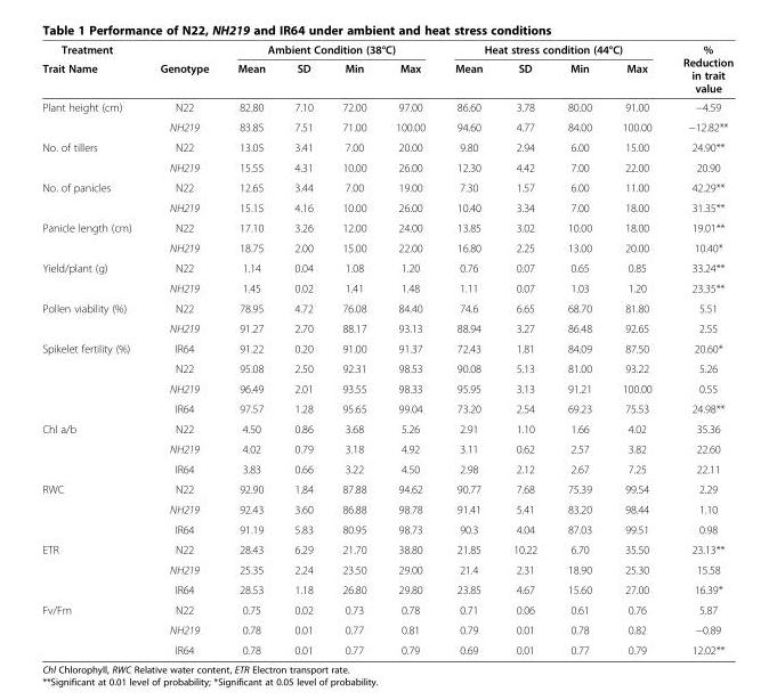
<table><thead><tr><td rowspan="2">Treatment Trait Name</td><td rowspan="2">Genotype</td><td colspan="4">Ambient Condition (38°C)</td><td colspan="4">Heat stress condition (44°C)</td><td rowspan="2">% Reduction in trait value</td></tr><tr><td>Mean</td><td>SD</td><td>Min</td><td>Max</td><td>Mean</td><td>SD</td><td>Min</td><td>Max</td></tr></thead><tbody><tr><td rowspan="2">Plant height (cm)</td><td>N22</td><td>82.80</td><td>7.10</td><td>72.00</td><td>97.00</td><td>86.60</td><td>3.78</td><td>80.00</td><td>91.00</td><td>−4.59</td></tr><tr><td>NH219</td><td>83.85</td><td>7.51</td><td>71.00</td><td>100.00</td><td>94.60</td><td>4.77</td><td>84.00</td><td>100.00</td><td>−12.82**</td></tr><tr><td rowspan="2">No. of tillers</td><td>N22</td><td>13.05</td><td>3.41</td><td>7.00</td><td>20.00</td><td>9.80</td><td>2.94</td><td>6.00</td><td>15.00</td><td>24.90**</td></tr><tr><td>NH219</td><td>15.55</td><td>4.31</td><td>10.00</td><td>26.00</td><td>12.30</td><td>4.42</td><td>7.00</td><td>22.00</td><td>20.90</td></tr><tr><td rowspan="2">No. of panicles</td><td>N22</td><td>12.65</td><td>3.44</td><td>7.00</td><td>19.00</td><td>7.30</td><td>1.57</td><td>6.00</td><td>11.00</td><td>42.29**</td></tr><tr><td>NH219</td><td>15.15</td><td>4.16</td><td>10.00</td><td>26.00</td><td>10.40</td><td>3.34</td><td>7.00</td><td>18.00</td><td>31.35**</td></tr><tr><td rowspan="2">Panicle length (cm)</td><td>N22</td><td>17.10</td><td>3.26</td><td>12.00</td><td>24.00</td><td>13.85</td><td>3.02</td><td>10.00</td><td>18.00</td><td>19.01**</td></tr><tr><td>NH219</td><td>18.75</td><td>2.00</td><td>15.00</td><td>22.00</td><td>16.80</td><td>2.25</td><td>13.00</td><td>20.00</td><td>10.40*</td></tr><tr><td rowspan="2">Yield/plant (g)</td><td>N22</td><td>1.14</td><td>0.04</td><td>1.08</td><td>1.20</td><td>0.76</td><td>0.07</td><td>0.65</td><td>0.85</td><td>33.24**</td></tr><tr><td>NH219</td><td>1.45</td><td>0.02</td><td>1.41</td><td>1.48</td><td>1.11</td><td>0.07</td><td>1.03</td><td>1.20</td><td>23.35**</td></tr><tr><td rowspan="2">Pollen viability (%)</td><td>N22</td><td>78.95</td><td>4.72</td><td>76.08</td><td>84.40</td><td>74.6</td><td>6.65</td><td>68.70</td><td>81.80</td><td>5.51</td></tr><tr><td>NH219</td><td>91.27</td><td>2.70</td><td>88.17</td><td>93.13</td><td>88.94</td><td>3.27</td><td>86.48</td><td>92.65</td><td>2.55</td></tr><tr><td rowspan="4">Spikelet fertility (%)</td><td>IR64</td><td>91.22</td><td>0.20</td><td>91.00</td><td>91.37</td><td>72.43</td><td>1.81</td><td>84.09</td><td>87.50</td><td>20.60*</td></tr><tr><td>N22</td><td>95.08</td><td>2.50</td><td>92.31</td><td>98.53</td><td>90.08</td><td>5.13</td><td>81.00</td><td>93.22</td><td>5.26</td></tr><tr><td>NH219</td><td>96.49</td><td>2.01</td><td>93.55</td><td>98.33</td><td>95.95</td><td>3.13</td><td>91.21</td><td>100.00</td><td>0.55</td></tr><tr><td>IR64</td><td>97.57</td><td>1.28</td><td>95.65</td><td>99.04</td><td>73.20</td><td>2.54</td><td>69.23</td><td>75.53</td><td>24.98**</td></tr><tr><td rowspan="3">Chl a/b</td><td>N22</td><td>4.50</td><td>0.86</td><td>3.68</td><td>5.26</td><td>2.91</td><td>1.10</td><td>1.66</td><td>4.02</td><td>35.36</td></tr><tr><td>NH219</td><td>4.02</td><td>0.79</td><td>3.18</td><td>4.92</td><td>3.11</td><td>0.62</td><td>2.57</td><td>3.82</td><td>22.60</td></tr><tr><td>IR64</td><td>3.83</td><td>0.66</td><td>3.22</td><td>4.50</td><td>2.98</td><td>2.12</td><td>2.67</td><td>7.25</td><td>22.11</td></tr><tr><td rowspan="3">RWC</td><td>N22</td><td>92.90</td><td>1.84</td><td>87.88</td><td>94.62</td><td>90.77</td><td>7.68</td><td>75.39</td><td>99.54</td><td>2.29</td></tr><tr><td>NH219</td><td>92.43</td><td>3.60</td><td>86.88</td><td>98.78</td><td>91.41</td><td>5.41</td><td>83.20</td><td>98.44</td><td>1.10</td></tr><tr><td>IR64</td><td>91.19</td><td>5.83</td><td>80.95</td><td>98.73</td><td>90.3</td><td>4.04</td><td>87.03</td><td>99.51</td><td>0.98</td></tr><tr><td rowspan="3">ETR</td><td>N22</td><td>28.43</td><td>6.29</td><td>21.70</td><td>38.80</td><td>21.85</td><td>10.22</td><td>6.70</td><td>35.50</td><td>23.13**</td></tr><tr><td>NH219</td><td>25.35</td><td>2.24</td><td>23.50</td><td>29.00</td><td>21.4</td><td>2.31</td><td>18.90</td><td>25.30</td><td>15.58</td></tr><tr><td>IR64</td><td>28.53</td><td>1.18</td><td>26.80</td><td>29.80</td><td>23.85</td><td>4.67</td><td>15.60</td><td>27.00</td><td>16.39*</td></tr><tr><td rowspan="3">Fv/Fm</td><td>N22</td><td>0.75</td><td>0.02</td><td>0.73</td><td>0.78</td><td>0.71</td><td>0.06</td><td>0.61</td><td>0.76</td><td>5.87</td></tr><tr><td>NH219</td><td>0.78</td><td>0.01</td><td>0.77</td><td>0.81</td><td>0.79</td><td>0.01</td><td>0.78</td><td>0.82</td><td>−0.89</td></tr><tr><td>IR64</td><td>0.78</td><td>0.01</td><td>0.77</td><td>0.79</td><td>0.69</td><td>0.01</td><td>0.77</td><td>0.79</td><td>12.02**</td></tr></tbody></table>